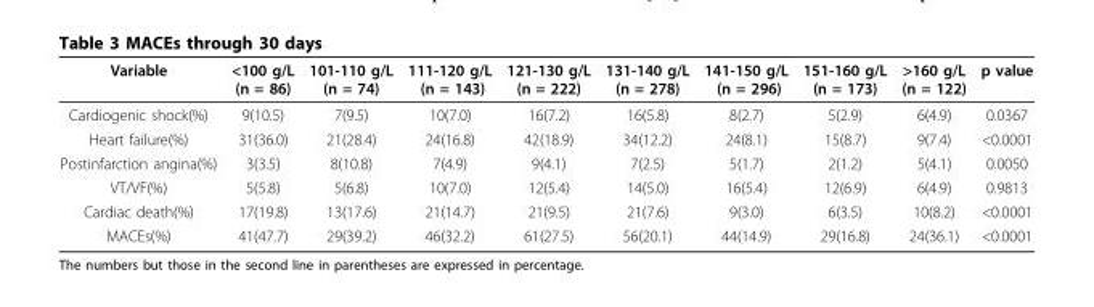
<table><thead><tr><td>Variable</td><td>&lt;100 g/L (n = 86)</td><td>101-110 g/L (n = 74)</td><td>111-120 g/L (n = 143)</td><td>121-130 g/L (n = 222)</td><td>131-140 g/L (n = 278)</td><td>141-150 g/L (n = 296)</td><td>151-160 g/L (n = 173)</td><td>&gt;160 g/L (n = 122)</td><td>p value</td></tr></thead><tbody><tr><td>Cardiogenic shock(%)</td><td>9(10.5)</td><td>7(9.5)</td><td>10(7.0)</td><td>16(7.2)</td><td>16(5.8)</td><td>8(2.7)</td><td>5(2.9)</td><td>6(4.9)</td><td>0.0367</td></tr><tr><td>Heart failure(%)</td><td>31(36.0)</td><td>21(28.4)</td><td>24(16.8)</td><td>42(18.9)</td><td>34(12.2)</td><td>24(8.1)</td><td>15(8.7)</td><td>9(7.4)</td><td>&lt;0.0001</td></tr><tr><td>Postinfarction angina(%)</td><td>3(3.5)</td><td>8(10.8)</td><td>7(4.9)</td><td>9(4.1)</td><td>7(2.5)</td><td>5(1.7)</td><td>2(1.2)</td><td>5(4.1)</td><td>0.0050</td></tr><tr><td>VT/VF(%)</td><td>5(5.8)</td><td>5(6.8)</td><td>10(7.0)</td><td>12(5.4)</td><td>14(5.0)</td><td>16(5.4)</td><td>12(6.9)</td><td>6(4.9)</td><td>0.9813</td></tr><tr><td>Cardiac death(%)</td><td>17(19.8)</td><td>13(17.6)</td><td>21(14.7)</td><td>21(9.5)</td><td>21(7.6)</td><td>9(3.0)</td><td>6(3.5)</td><td>10(8.2)</td><td>&lt;0.0001</td></tr><tr><td>MACEs(%)</td><td>41(47.7)</td><td>29(39.2)</td><td>46(32.2)</td><td>61(27.5)</td><td>56(20.1)</td><td>44(14.9)</td><td>29(16.8)</td><td>24(36.1)</td><td>&lt;0.0001</td></tr></tbody></table>